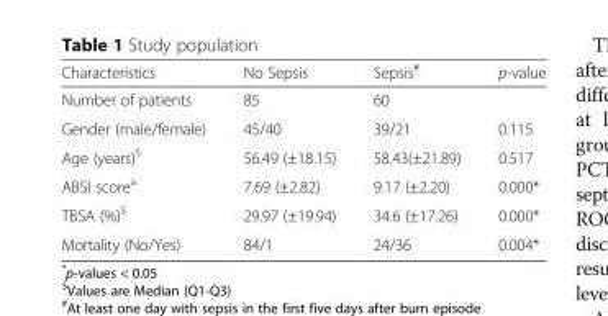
<table><thead><tr><td>Characteristics</td><td>No Sepsis</td><td>Sepsis<sup>#</sup></td><td>p-value</td></tr></thead><tbody><tr><td>Number of patients</td><td>85</td><td>60</td><td></td></tr><tr><td>Gender (male/female)</td><td>45/40</td><td>39/21</td><td>0.115</td></tr><tr><td>Age (years)<sup>$</sup></td><td>56.49 (±18.15)</td><td>58.43(±21.89)</td><td>0.517</td></tr><tr><td>ABSI score<sup>a</sup></td><td>7.69 (±2.82)</td><td>9.17 (±2.20)</td><td>0.000*</td></tr><tr><td>TBSA (%)<sup>$</sup></td><td>29.97 (±19.94)</td><td>34.6 (±17.26)</td><td>0.000*</td></tr><tr><td>Mortality (No/Yes)</td><td>84/1</td><td>24/36</td><td>0.004*</td></tr></tbody></table>